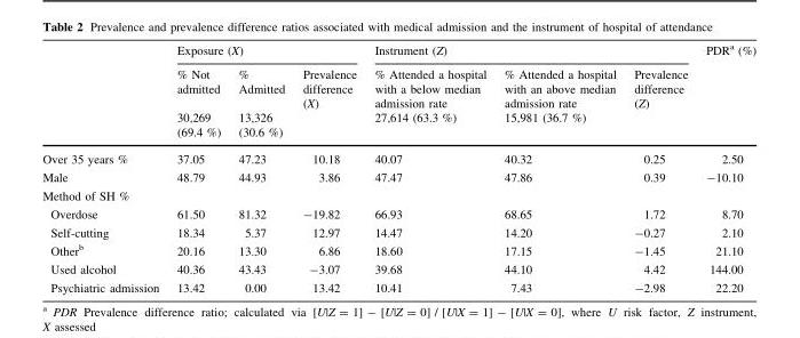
<table><thead><tr><td rowspan="3"></td><td colspan="3">Exposure (X)</td><td colspan="3">Instrument (Z)</td><td rowspan="3">PDR<sup>a</sup> (%)</td></tr><tr><td rowspan="2">% Not admitted 30,269 (69.4 %)</td><td rowspan="2">% Admitted 13,326 (30.6 %)</td><td rowspan="2">Prevalence difference (X)</td><td rowspan="2">% Attended a hospital with a below median admission rate 27,614 (63.3 %)</td><td rowspan="2">% Attended a hospital with an above median admission rate 15,981 (36.7 %)</td><td rowspan="2">Prevalence difference (Z)</td></tr><tr></tr></thead><tbody><tr><td>Over 35 years %</td><td>37.05</td><td>47.23</td><td>10.18</td><td>40.07</td><td>40.32</td><td>0.25</td><td>2.50</td></tr><tr><td>Male</td><td>48.79</td><td>44.93</td><td>3.86</td><td>47.47</td><td>47.86</td><td>0.39</td><td>-10.10</td></tr><tr><td colspan="8">Method of SH %</td></tr><tr><td>Overdose</td><td>61.50</td><td>81.32</td><td>-19.82</td><td>66.93</td><td>68.65</td><td>1.72</td><td>8.70</td></tr><tr><td>Self-cutting</td><td>18.34</td><td>5.37</td><td>12.97</td><td>14.47</td><td>14.20</td><td>-0.27</td><td>2.10</td></tr><tr><td>Other<sup>b</sup></td><td>20.16</td><td>13.30</td><td>6.86</td><td>18.60</td><td>17.15</td><td>-1.45</td><td>21.10</td></tr><tr><td>Used alcohol</td><td>40.36</td><td>43.43</td><td>-3.07</td><td>39.68</td><td>44.10</td><td>4.42</td><td>144.00</td></tr><tr><td>Psychiatric admission</td><td>13.42</td><td>0.00</td><td>13.42</td><td>10.41</td><td>7.43</td><td>-2.98</td><td>22.20</td></tr></tbody></table>